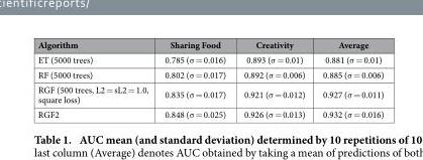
<table><thead><tr><td>Algorithm</td><td>Sharing Food</td><td>Creativity</td><td>Average</td></tr></thead><tbody><tr><td>ET (5000 trees)</td><td>0.785 (σ = 0.016)</td><td>0.893 (σ = 0.01)</td><td>0.881 (σ = 0.01)</td></tr><tr><td>RF (5000 trees)</td><td>0.802 (σ = 0.017)</td><td>0.892 (σ = 0.006)</td><td>0.885 (σ = 0.006)</td></tr><tr><td>RGF (500 trees, L2 = sL2 = 1.0, square loss)</td><td>0.835 (σ = 0.017)</td><td>0.921 (σ = 0.012)</td><td>0.927 (σ = 0.011)</td></tr><tr><td>RGF2</td><td>0.848 (σ = 0.025)</td><td>0.926 (σ = 0.013)</td><td>0.932 (σ = 0.016)</td></tr></tbody></table>